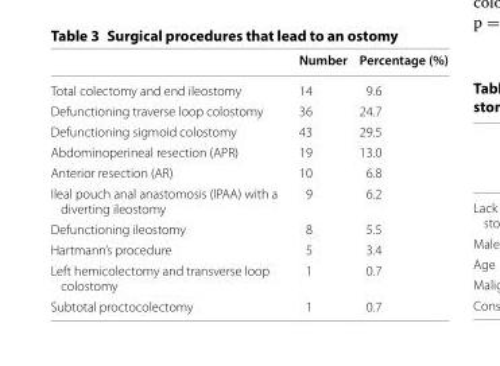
<table><thead><tr><td></td><td>Number</td><td>Percentage (%)</td></tr></thead><tbody><tr><td>Total colectomy and end ileostomy</td><td>14</td><td>9.6</td></tr><tr><td>Defunctioning traverse loop colostomy</td><td>36</td><td>24.7</td></tr><tr><td>Defunctioning sigmoid colostomy</td><td>43</td><td>29.5</td></tr><tr><td>Abdominoperineal resection (APR)</td><td>19</td><td>13.0</td></tr><tr><td>Anterior resection (AR)</td><td>10</td><td>6.8</td></tr><tr><td>Ileal pouch anal anastomosis (IPAA) with a diverting ileostomy</td><td>9</td><td>6.2</td></tr><tr><td>Defunctioning ileostomy</td><td>8</td><td>5.5</td></tr><tr><td>Hartmann’s procedure</td><td>5</td><td>3.4</td></tr><tr><td>Left hemicolectomy and transverse loop colostomy</td><td>1</td><td>0.7</td></tr><tr><td>Subtotal proctocolectomy</td><td>1</td><td>0.7</td></tr></tbody></table>